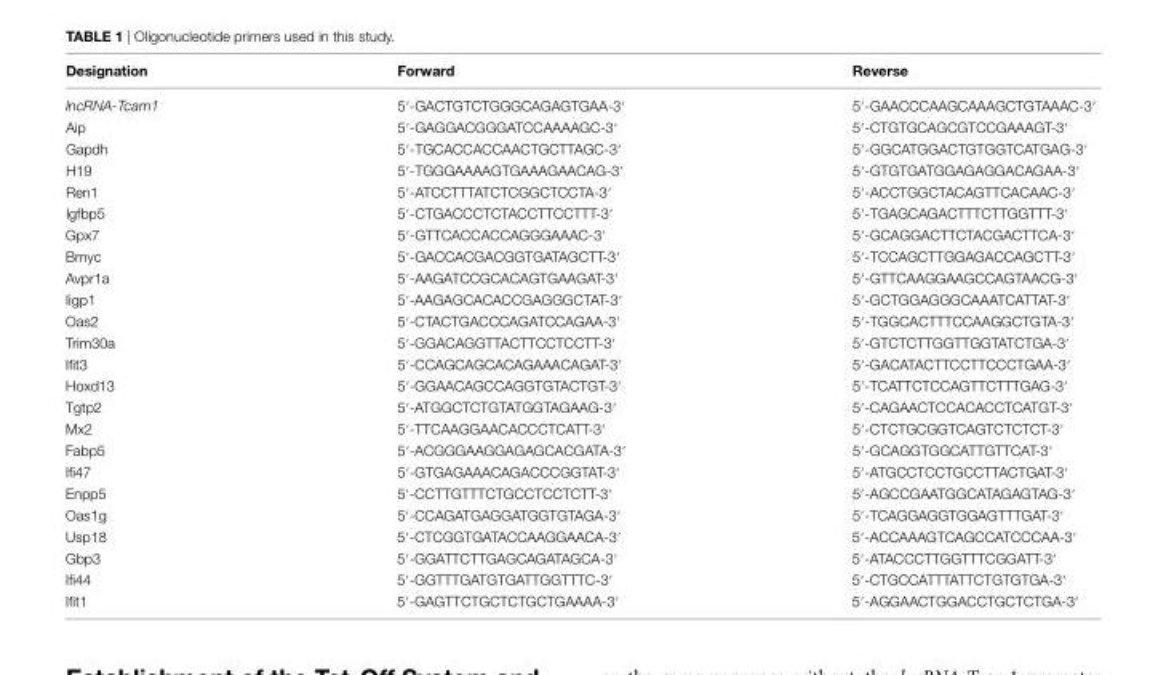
<table><thead><tr><td>Designation</td><td>Forward</td><td>reverse</td></tr></thead><tbody><tr><td>lncRNA-Tcam1</td><td>5′-GACTGTCTGGGCAGAGTGAA-3′</td><td>5′-GAACCCAAGCAAAGCTGTAAAC-3′</td></tr><tr><td>Aip</td><td>5′-GAGGACGGGATCCAAAAGC-3′</td><td>5′-CTGTGCAGCGTCCGAAAGT-3′</td></tr><tr><td>Gapdh</td><td>5′-TGCACCACCAACTGCTTAGC-3′</td><td>5′-GGCATGGACTGTGGTCATGAG-3′</td></tr><tr><td>H19</td><td>5′-TGGGAAAAGTGAAAGAACAG-3′</td><td>5′-GTGTGATGGAGAGGACAGAA-3′</td></tr><tr><td>Ren1</td><td>5′-ATCCTTTATCTCGGCTCCTA-3′</td><td>5′-ACCTGGCTACAGTTCACAAC-3′</td></tr><tr><td>Igfbp5</td><td>5′-CTGACCCTCTACCTTCCTTT-3′</td><td>5′-TGAGCAGACTTTCTTGGTTT-3′</td></tr><tr><td>Gpx7</td><td>5′-GTTCACCACCAGGGAAAC-3′</td><td>5′-GCAGGACTTCTACGACTTCA-3′</td></tr><tr><td>Bmyc</td><td>5′-GACCACGACGGTGATAGCTT-3′</td><td>5′-TCCAGCTTGGAGACCAGCTT-3′</td></tr><tr><td>Avpr1a</td><td>5′-AAGATCCGCACAGTGAAGAT-3′</td><td>5′-GTTCAAGGAAGCCAGTAACG-3′</td></tr><tr><td>Iigp1</td><td>5′-AAGAGCACACCGAGGGCTAT-3′</td><td>5′-GCTGGAGGGCAAATCATTAT-3′</td></tr><tr><td>Oas2</td><td>5′-CTACTGACCCAGATCCAGAA-3′</td><td>5′-TGGCACTTTCCAAGGCTGTA-3′</td></tr><tr><td>Trim30a</td><td>5′-GGACAGGTTACTTCCTCCTT-3′</td><td>5′-GTCTCTTGGTTGGTATCTGA-3′</td></tr><tr><td>Ifit3</td><td>5′-CCAGCAGCACAGAAACAGAT-3′</td><td>5′-GACATACTTCCTTCCCTGAA-3′</td></tr><tr><td>Hoxd13</td><td>5′-GGAACAGCCAGGTGTACTGT-3′</td><td>5′-TCATTCTCCAGTTCTTTGAG-3′</td></tr><tr><td>Tgtp2</td><td>5′-ATGGCTCTGTATGGTAGAAG-3′</td><td>5′-CAGAACTCCACACCTCATGT-3′</td></tr><tr><td>Mx2</td><td>5′-TTCAAGGAACACCCTCATT-3′</td><td>5′-CTCTGCGGTCAGTCTCTCT-3′</td></tr><tr><td>Fabp5</td><td>5′-ACGGGAAGGAGAGCACGATA-3′</td><td>5′-GCAGGTGGCATTGTTCAT-3′</td></tr><tr><td>Ifi47</td><td>5′-GTGAGAAACAGACCCGGTAT-3′</td><td>5′-ATGCCTCCTGCCTTACTGAT-3′</td></tr><tr><td>Enpp5</td><td>5′-CCTTGTTTCTGCCTCCTCTT-3′</td><td>5′-AGCCGAATGGCATAGAGTAG-3′</td></tr><tr><td>Oas1g</td><td>5′-CCAGATGAGGATGGTGTAGA-3′</td><td>5′-TCAGGAGGTGGAGTTTGAT-3′</td></tr><tr><td>Usp18</td><td>5′-CTCGGTGATACCAAGGAACA-3′</td><td>5′-ACCAAAGTCAGCCATCCCAA-3′</td></tr><tr><td>Gbp3</td><td>5′-GGATTCTTGAGCAGATAGCA-3′</td><td>5′-ATACCCTTGGTTTCGGATT-3′</td></tr><tr><td>Ifi44</td><td>5′-GGTTTGATGTGATTGGTTTC-3′</td><td>5′-CTGCCATTTATTCTGTGTGA-3′</td></tr><tr><td>Ifit1</td><td>5′-GAGTTCTGCTCTGCTGAAAA-3′</td><td>5′-AGGAACTGGACCTGCTCTGA-3′</td></tr></tbody></table>